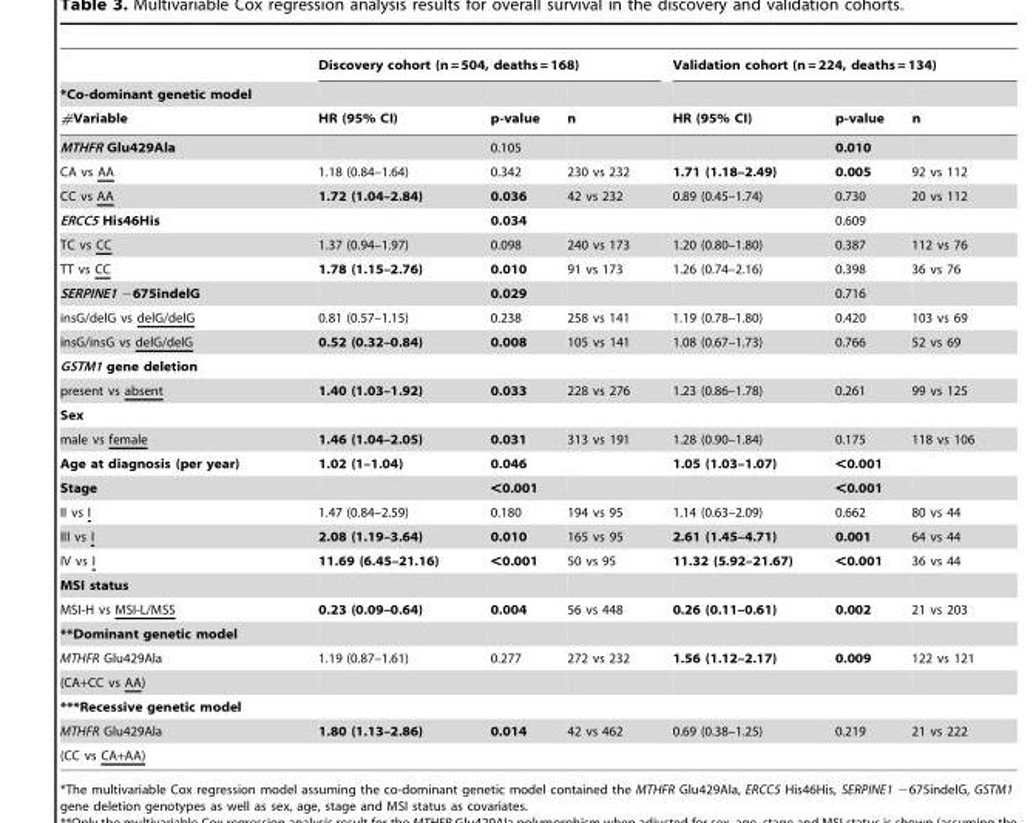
<table><thead><tr><td rowspan="3">*Co-dominant genetic model #Variable</td><td colspan="3">Discovery cohort (n = 504, deaths = 168)</td><td colspan="3">Validation cohort (n = 224, deaths = 134)</td></tr><tr><td rowspan="2">HR (95% CI)</td><td rowspan="2">p-value</td><td rowspan="2">n</td><td rowspan="2">HR (95% CI)</td><td rowspan="2">p-value</td><td rowspan="2">n</td></tr><tr></tr></thead><tbody><tr><td>MTHFR Glu429Ala</td><td></td><td>0.105</td><td></td><td></td><td>0.010</td><td></td></tr><tr><td>CA vs AA</td><td>1.18 (0.84–1.64)</td><td>0.342</td><td>230 vs 232</td><td>1.71 (1.18–2.49)</td><td>0.005</td><td>92 vs 112</td></tr><tr><td>CC vs AA</td><td>1.72 (1.04–2.84)</td><td>0.036</td><td>42 vs 232</td><td>0.89 (0.45–1.74)</td><td>0.730</td><td>20 vs 112</td></tr><tr><td>ERCC5 His46His</td><td></td><td>0.034</td><td></td><td></td><td>0.609</td><td></td></tr><tr><td>TC vs CC</td><td>1.37 (0.94–1.97)</td><td>0.098</td><td>240 vs 173</td><td>1.20 (0.80–1.80)</td><td>0.387</td><td>112 vs 76</td></tr><tr><td>TT vs CC</td><td>1.78 (1.15–2.76)</td><td>0.010</td><td>91 vs 173</td><td>1.26 (0.74–2.16)</td><td>0.398</td><td>36 vs 76</td></tr><tr><td>SERPINE1 −675indelG</td><td></td><td>0.029</td><td></td><td></td><td>0.716</td><td></td></tr><tr><td>insG/delG vs delG/delG</td><td>0.81 (0.57–1.15)</td><td>0.238</td><td>258 vs 141</td><td>1.19 (0.78–1.80)</td><td>0.420</td><td>103 vs 69</td></tr><tr><td>insG/insG vs delG/delG</td><td>0.52 (0.32–0.84)</td><td>0.008</td><td>105 vs 141</td><td>1.08 (0.67–1.73)</td><td>0.766</td><td>52 vs 69</td></tr><tr><td colspan="7">GSTM1 gene deletion</td></tr><tr><td>present vs absent</td><td>1.40 (1.03–1.92)</td><td>0.033</td><td>228 vs 276</td><td>1.23 (0.86–1.78)</td><td>0.261</td><td>99 vs 125</td></tr><tr><td colspan="7">Sex</td></tr><tr><td>male vs female</td><td>1.46 (1.04–2.05)</td><td>0.031</td><td>313 vs 191</td><td>1.28 (0.90–1.84)</td><td>0.175</td><td>118 vs 106</td></tr><tr><td>Age at diagnosis (per year)</td><td>1.02 (1–1.04)</td><td>0.046</td><td></td><td>1.05 (1.03–1.07)</td><td>&lt;0.001</td><td></td></tr><tr><td>Stage</td><td></td><td>&lt;0.001</td><td></td><td></td><td>&lt;0.001</td><td></td></tr><tr><td>II vs I</td><td>1.47 (0.84–2.59)</td><td>0.180</td><td>194 vs 95</td><td>1.14 (0.63–2.09)</td><td>0.662</td><td>80 vs 44</td></tr><tr><td>III vs I</td><td>2.08 (1.19–3.64)</td><td>0.010</td><td>165 vs 95</td><td>2.61 (1.45–4.71)</td><td>0.001</td><td>64 vs 44</td></tr><tr><td>IV vs I</td><td>11.69 (6.45–21.16)</td><td>&lt;0.001</td><td>50 vs 95</td><td>11.32 (5.92–21.67)</td><td>&lt;0.001</td><td>36 vs 44</td></tr><tr><td colspan="7">MSI status</td></tr><tr><td>MSI-H vs MSI-L/MSS</td><td>0.23 (0.09–0.64)</td><td>0.004</td><td>56 vs 448</td><td>0.26 (0.11–0.61)</td><td>0.002</td><td>21 vs 203</td></tr><tr><td colspan="7">**Dominant genetic model</td></tr><tr><td>MTHFR Glu429Ala</td><td>1.19 (0.87–1.61)</td><td>0.277</td><td>272 vs 232</td><td>1.56 (1.12–2.17)</td><td>0.009</td><td>122 vs 121</td></tr><tr><td colspan="7">(CA+CC vs AA)</td></tr><tr><td colspan="7">***Recessive genetic model</td></tr><tr><td>MTHFR Glu429Ala</td><td>1.80 (1.13–2.86)</td><td>0.014</td><td>42 vs 462</td><td>0.69 (0.38–1.25)</td><td>0.219</td><td>21 vs 222</td></tr><tr><td>(CC vs CA+AA)</td><td></td><td></td><td></td><td></td><td></td><td></td></tr></tbody></table>